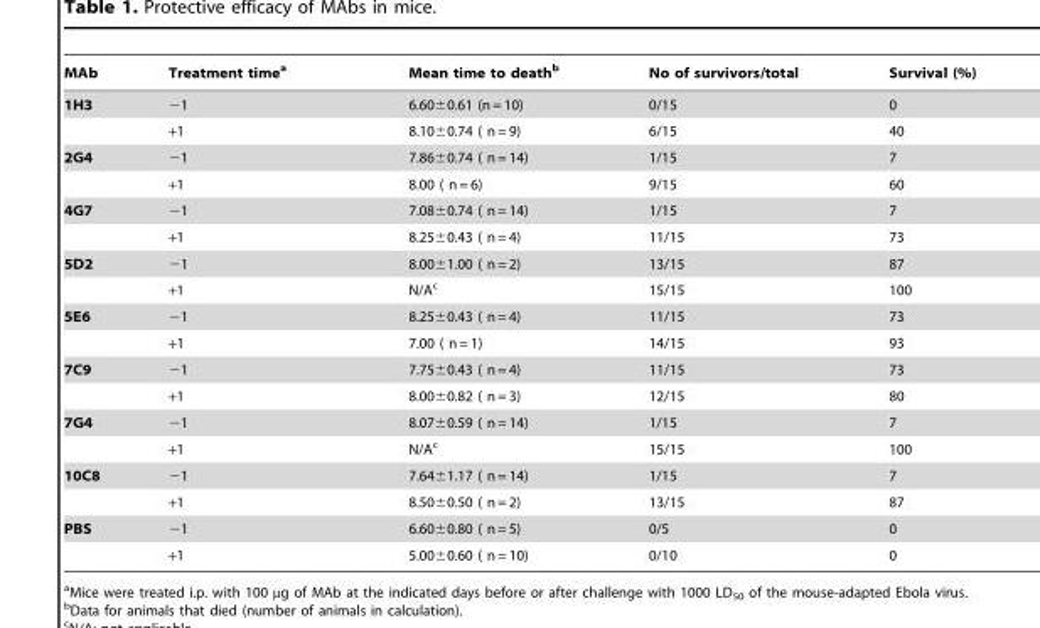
<table><thead><tr><td>MAb</td><td>Treatment time<sup>a</sup></td><td>Mean time to death<sup>b</sup></td><td>No of survivors/total</td><td>Survival (%)</td></tr></thead><tbody><tr><td rowspan="2">1H3</td><td>−1</td><td>6.60±0.61 (n = 10)</td><td>0/15</td><td>0</td></tr><tr><td>+1</td><td>8.10±0.74 ( n = 9)</td><td>6/15</td><td>40</td></tr><tr><td rowspan="2">2G4</td><td>−1</td><td>7.86±0.74 ( n = 14)</td><td>1/15</td><td>7</td></tr><tr><td>+1</td><td>8.00 ( n = 6)</td><td>9/15</td><td>60</td></tr><tr><td rowspan="2">4G7</td><td>−1</td><td>7.08±0.74 ( n = 14)</td><td>1/15</td><td>7</td></tr><tr><td>+1</td><td>8.25±0.43 ( n = 4)</td><td>11/15</td><td>73</td></tr><tr><td rowspan="2">5D2</td><td>−1</td><td>8.00±1.00 ( n = 2)</td><td>13/15</td><td>87</td></tr><tr><td>+1</td><td>N/A<sup>c</sup></td><td>15/15</td><td>100</td></tr><tr><td rowspan="2">5E6</td><td>−1</td><td>8.25±0.43 ( n = 4)</td><td>11/15</td><td>73</td></tr><tr><td>+1</td><td>7.00 ( n = 1)</td><td>14/15</td><td>93</td></tr><tr><td rowspan="2">7C9</td><td>−1</td><td>7.75±0.43 ( n = 4)</td><td>11/15</td><td>73</td></tr><tr><td>+1</td><td>8.00±0.82 ( n = 3)</td><td>12/15</td><td>80</td></tr><tr><td rowspan="2">7G4</td><td>−1</td><td>8.07±0.59 ( n = 14)</td><td>1/15</td><td>7</td></tr><tr><td>+1</td><td>N/A<sup>c</sup></td><td>15/15</td><td>100</td></tr><tr><td rowspan="2">10C8</td><td>−1</td><td>7.64±1.17 ( n = 14)</td><td>1/15</td><td>7</td></tr><tr><td>+1</td><td>8.50±0.50 ( n = 2)</td><td>13/15</td><td>87</td></tr><tr><td rowspan="2">PBS</td><td>−1</td><td>6.60±0.80 ( n = 5)</td><td>0/5</td><td>0</td></tr><tr><td>+1</td><td>5.00±0.60 ( n = 10)</td><td>0/10</td><td>0</td></tr></tbody></table>